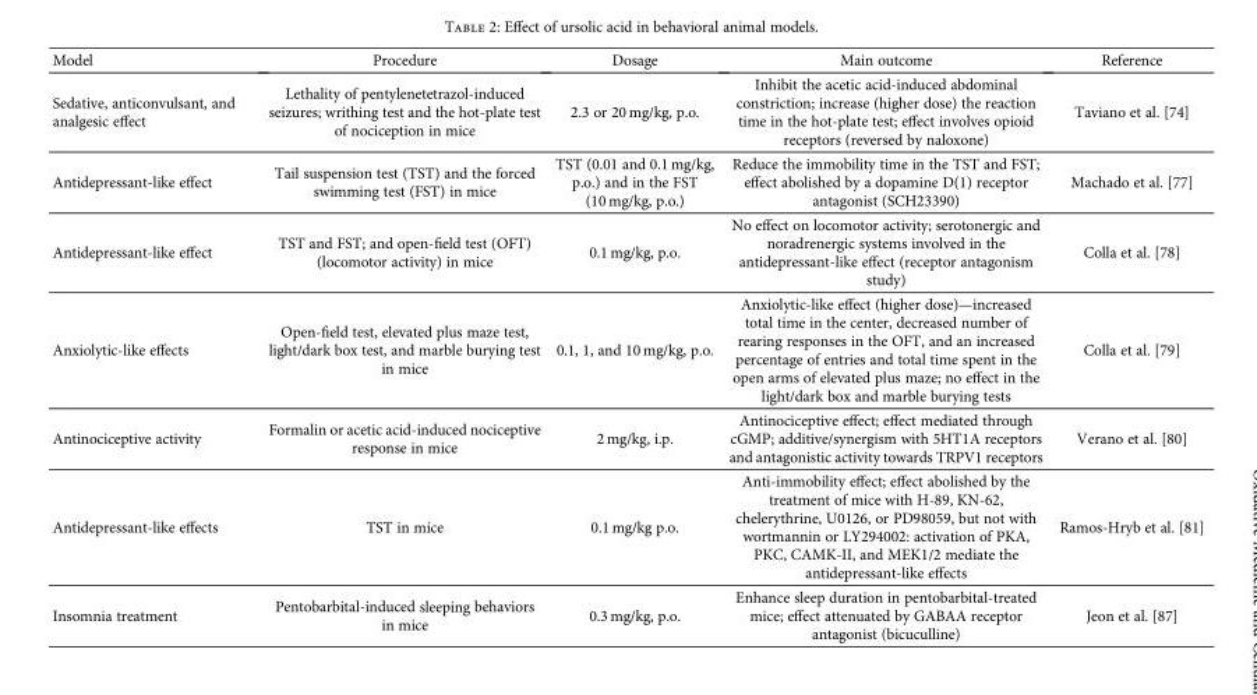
<table><thead><tr><td>Model</td><td>Procedure</td><td>Dosage</td><td>Main outcome</td><td>Reference</td></tr></thead><tbody><tr><td>Sedative, anticonvulsant, and analgesic effect</td><td>Lethality of pentylenetetrazol-induced seizures; writhing test and the hot-plate test of nociception in mice</td><td>2.3 or 20 mg/kg, p.o.</td><td>Inhibit the acetic acid-induced abdominal constriction; increase (higher dose) the reaction time in the hot-plate test; effect involves opioid receptors (reversed by naloxone)</td><td>Taviano et al. [74]</td></tr><tr><td>Antidepressant-like effect</td><td>Tail suspension test (TST) and the forced swimming test (FST) in mice</td><td>TST (0.01 and 0.1 mg/kg, p.o.) and in the FST (10 mg/kg, p.o.)</td><td>Reduce the immobility time in the TST and FST; effect abolished by a dopamine D(1) receptor antagonist (SCH23390)</td><td>Machado et al. [77]</td></tr><tr><td>Antidepressant-like effect</td><td>TST and FST; and open-field test (OFT) (locomotor activity) in mice</td><td>0.1 mg/kg, p.o.</td><td>No effect on locomotor activity; serotonergic and noradrenergic systems involved in the antidepressant-like effect (receptor antagonism study)</td><td>Colla et al. [78]</td></tr><tr><td>Anxiolytic-like effects</td><td>Open-field test, elevated plus maze test, light/dark box test, and marble burying test in mice</td><td>0.1, 1, and 10 mg/kg, p.o.</td><td>Anxiolytic-like effect (higher dose)—increased total time in the center, decreased number of rearing responses in the OFT, and an increased percentage of entries and total time spent in the open arms of elevated plus maze; no effect in the light/dark box and marble burying tests</td><td>Colla et al. [79]</td></tr><tr><td>Antinociceptive activity</td><td>Formalin or acetic acid-induced nociceptive response in mice</td><td>2 mg/kg, i.p.</td><td>Antinociceptive effect; effect mediated through cGMP; additive/synergism with 5HT1A receptors and antagonistic activity towards TRPV1 receptors</td><td>Verano et al. [80]</td></tr><tr><td>Antidepressant-like effects</td><td>TST in mice</td><td>0.1 mg/kg p.o.</td><td>Anti-immobility effect; effect abolished by the treatment of mice with H-89, KN-62, chelerythrine, U0126, or PD98059, but not with wortmannin or LY294002: activation of PKA, PKC, CAMK-II, and MEK1/2 mediate the antidepressant-like effects</td><td>Ramos-Hryb et al. [81]</td></tr><tr><td>Insomnia treatment</td><td>Pentobarbital-induced sleeping behaviors in mice</td><td>0.3 mg/kg, p.o.</td><td>Enhance sleep duration in pentobarbital-treated mice; effect attenuated by GABAA receptor antagonist (bicuculline)</td><td>Jeon et al. [87]</td></tr></tbody></table>